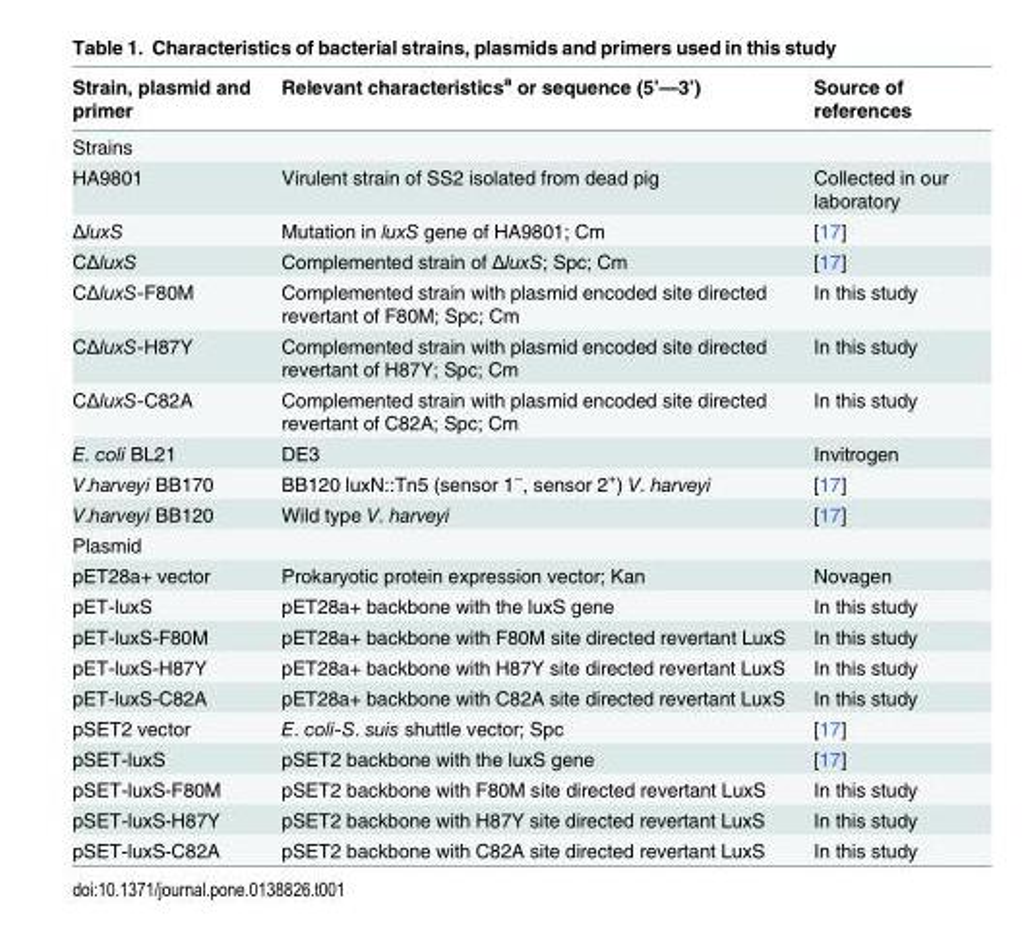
<table><thead><tr><td>Strain, plasmid and primer</td><td>Relevant characteristics<sup>a</sup> or sequence (5’—3’)</td><td>Source of references</td></tr></thead><tbody><tr><td colspan="3">Strains</td></tr><tr><td>HA9801</td><td>Virulent strain of SS2 isolated from dead pig</td><td>Collected in our laboratory</td></tr><tr><td>ΔluxS</td><td>Mutation in luxS gene of HA9801; Cm</td><td>[17]</td></tr><tr><td>CΔluxS</td><td>Complemented strain of ΔluxS; Spc; Cm</td><td>[17]</td></tr><tr><td>CΔluxS-F80M</td><td>Complemented strain with plasmid encoded site directed revertant of F80M; Spc; Cm</td><td>In this study</td></tr><tr><td>CΔluxS-H87Y</td><td>Complemented strain with plasmid encoded site directed revertant of H87Y; Spc; Cm</td><td>In this study</td></tr><tr><td>CΔluxS-C82A</td><td>Complemented strain with plasmid encoded site directed revertant of C82A; Spc; Cm</td><td>In this study</td></tr><tr><td>E. coli BL21</td><td>DE3</td><td>Invitrogen</td></tr><tr><td>V.harveyi BB170</td><td>BB120 luxN::Tn5 (sensor 1<sup>−</sup>, sensor 2<sup>+</sup>) V. harveyi</td><td>[17]</td></tr><tr><td>V.harveyi BB120</td><td>Wild type V. harveyi</td><td>[17]</td></tr><tr><td colspan="3">Plasmid</td></tr><tr><td>pET28a+ vector</td><td>Prokaryotic protein expression vector; Kan</td><td>Novagen</td></tr><tr><td>pET-luxS</td><td>pET28a+ backbone with the luxS gene</td><td>In this study</td></tr><tr><td>pET-luxS-F80M</td><td>pET28a+ backbone with F80M site directed revertant LuxS</td><td>In this study</td></tr><tr><td>pET-luxS-H87Y</td><td>pET28a+ backbone with H87Y site directed revertant LuxS</td><td>In this study</td></tr><tr><td>pET-luxS-C82A</td><td>pET28a+ backbone with C82A site directed revertant LuxS</td><td>In this study</td></tr><tr><td>pSET2 vector</td><td>E. coli-S. suis shuttle vector; Spc</td><td>[17]</td></tr><tr><td>pSET-luxS</td><td>pSET2 backbone with the luxS gene</td><td>[17]</td></tr><tr><td>pSET-luxS-F80M</td><td>pSET2 backbone with F80M site directed revertant LuxS</td><td>In this study</td></tr><tr><td>pSET-luxS-H87Y</td><td>pSET2 backbone with H87Y site directed revertant LuxS</td><td>In this study</td></tr><tr><td>pSET-luxS-C82A</td><td>pSET2 backbone with C82A site directed revertant LuxS</td><td>In this study</td></tr></tbody></table>